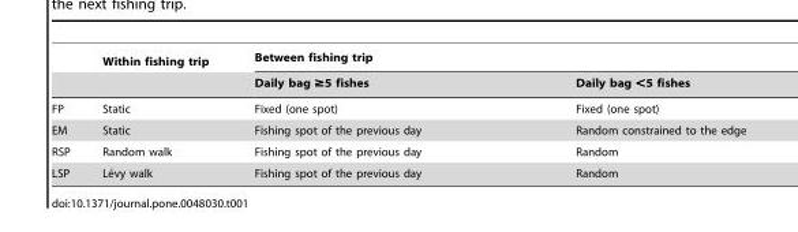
<table><thead><tr><td rowspan="2"></td><td rowspan="2">Within fishing trip</td><td colspan="2">Between fishing trip</td></tr><tr><td>Daily bag ≥5 fishes</td><td>Daily bag &lt;5 fishes</td></tr></thead><tbody><tr><td>FP</td><td>Static</td><td>Fixed (one spot)</td><td>Fixed (one spot)</td></tr><tr><td>EM</td><td>Static</td><td>Fishing spot of the previous day</td><td>Random constrained to the edge</td></tr><tr><td>RSP</td><td>Random walk</td><td>Fishing spot of the previous day</td><td>Random</td></tr><tr><td>LSP</td><td>Le´vy walk</td><td>Fishing spot of the previous day</td><td>Random</td></tr></tbody></table>